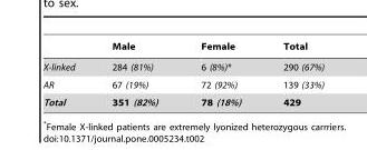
<table><thead><tr><td></td><td>Male</td><td>Female</td><td>Total</td></tr></thead><tbody><tr><td>X-linked</td><td>284 (81%)</td><td>6 (8%)*</td><td>290 (67%)</td></tr><tr><td>AR</td><td>67 (19%)</td><td>72 (92%)</td><td>139 (33%)</td></tr><tr><td>Total</td><td>351 (82%)</td><td>78 (18%)</td><td>429</td></tr></tbody></table>